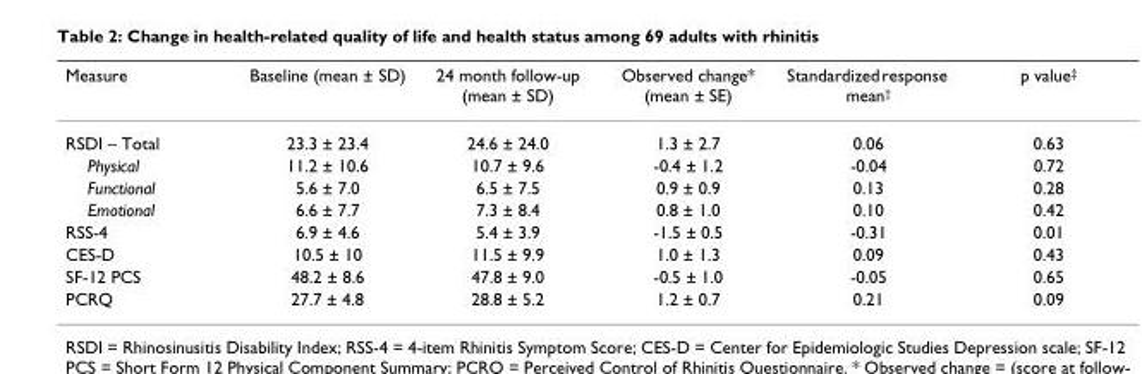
<table><thead><tr><td>Measure</td><td>Baseline (mean ± SD)</td><td>24 month follow-up (mean ± SD)</td><td>Observed change* (mean ± SE)</td><td>Standardized response mean<sup>†</sup></td><td>p value<sup>‡</sup></td></tr></thead><tbody><tr><td>RSDI – Total</td><td>23.3 ± 23.4</td><td>24.6 ± 24.0</td><td>1.3 ± 2.7</td><td>0.06</td><td>0.63</td></tr><tr><td>Physical</td><td>11.2 ± 10.6</td><td>10.7 ± 9.6</td><td>-0.4 ± 1.2</td><td>-0.04</td><td>0.72</td></tr><tr><td>Functional</td><td>5.6 ± 7.0</td><td>6.5 ± 7.5</td><td>0.9 ± 0.9</td><td>0.13</td><td>0.28</td></tr><tr><td>Emotional</td><td>6.6 ± 7.7</td><td>7.3 ± 8.4</td><td>0.8 ± 1.0</td><td>0.10</td><td>0.42</td></tr><tr><td>RSS-4</td><td>6.9 ± 4.6</td><td>5.4 ± 3.9</td><td>-1.5 ± 0.5</td><td>-0.31</td><td>0.01</td></tr><tr><td>CES-D</td><td>10.5 ± 10</td><td>11.5 ± 9.9</td><td>1.0 ± 1.3</td><td>0.09</td><td>0.43</td></tr><tr><td>SF-12 PCS</td><td>48.2 ± 8.6</td><td>47.8 ± 9.0</td><td>-0.5 ± 1.0</td><td>-0.05</td><td>0.65</td></tr><tr><td>PCRQ</td><td>27.7 ± 4.8</td><td>28.8 ± 5.2</td><td>1.2 ± 0.7</td><td>0.21</td><td>0.09</td></tr></tbody></table>